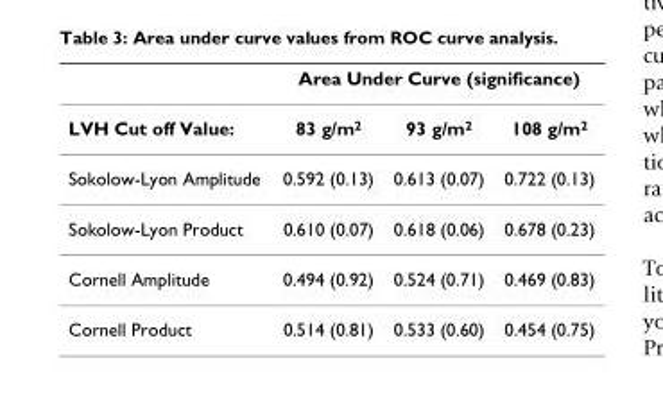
<table><thead><tr><td rowspan="2">LVH Cut off Value:</td><td colspan="3">Area Under Curve (significance)</td></tr><tr><td>83 g/m<sup>2</sup></td><td>93 g/m<sup>2</sup></td><td>108 g/m<sup>2</sup></td></tr></thead><tbody><tr><td>Sokolow-Lyon Amplitude</td><td>0.592 (0.13)</td><td>0.613 (0.07)</td><td>0.722 (0.13)</td></tr><tr><td>Sokolow-Lyon Product</td><td>0.610 (0.07)</td><td>0.618 (0.06)</td><td>0.678 (0.23)</td></tr><tr><td>Cornell Amplitude</td><td>0.494 (0.92)</td><td>0.524 (0.71)</td><td>0.469 (0.83)</td></tr><tr><td>Cornell Product</td><td>0.514 (0.81)</td><td>0.533 (0.60)</td><td>0.454 (0.75)</td></tr></tbody></table>